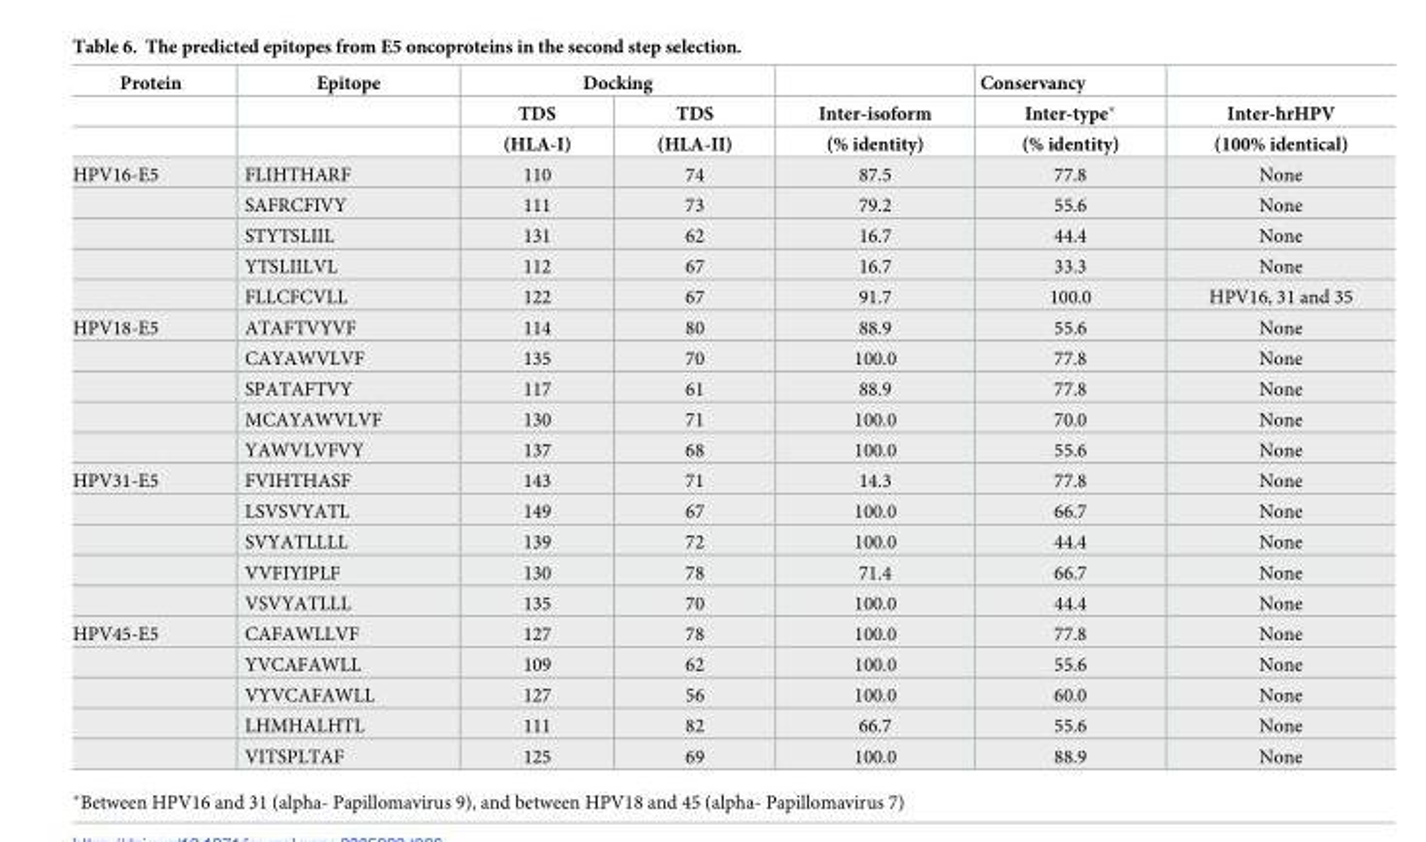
<table><thead><tr><td rowspan="3">Protein</td><td rowspan="3">Epitope</td><td colspan="2">Docking</td><td rowspan="3">Inter-isoform (% identity)</td><td rowspan="3">Conservancy Inter-type* (% identity)</td><td rowspan="3">Inter-hrHPV (100% identical)</td></tr><tr><td rowspan="2">TDS (HLA-I)</td><td rowspan="2">TDS (HLA-II)</td></tr><tr></tr></thead><tbody><tr><td rowspan="5">HPV16-E5</td><td>FLIHTHARF</td><td>110</td><td>74</td><td>87.5</td><td>77.8</td><td>None</td></tr><tr><td>SAFRCFIVY</td><td>111</td><td>73</td><td>79.2</td><td>55.6</td><td>None</td></tr><tr><td>STYTSLIIL</td><td>131</td><td>62</td><td>16.7</td><td>44.4</td><td>None</td></tr><tr><td>YTSLIILVL</td><td>112</td><td>67</td><td>16.7</td><td>33.3</td><td>None</td></tr><tr><td>FLLCFCVLL</td><td>122</td><td>67</td><td>91.7</td><td>100.0</td><td>HPV16, 31 and 35</td></tr><tr><td rowspan="5">HPV18-E5</td><td>ATAFTVYVF</td><td>114</td><td>80</td><td>88.9</td><td>55.6</td><td>None</td></tr><tr><td>CAYAWVLVF</td><td>135</td><td>70</td><td>100.0</td><td>77.8</td><td>None</td></tr><tr><td>SPATAFTVY</td><td>117</td><td>61</td><td>88.9</td><td>77.8</td><td>None</td></tr><tr><td>MCAYAWVLVF</td><td>130</td><td>71</td><td>100.0</td><td>70.0</td><td>None</td></tr><tr><td>YAWVLVFVY</td><td>137</td><td>68</td><td>100.0</td><td>55.6</td><td>None</td></tr><tr><td rowspan="5">HPV31-E5</td><td>FVIHTHASF</td><td>143</td><td>71</td><td>14.3</td><td>77.8</td><td>None</td></tr><tr><td>LSVSVYATL</td><td>149</td><td>67</td><td>100.0</td><td>66.7</td><td>None</td></tr><tr><td>SVYATLLLL</td><td>139</td><td>72</td><td>100.0</td><td>44.4</td><td>None</td></tr><tr><td>VVFIYIPLF</td><td>130</td><td>78</td><td>71.4</td><td>66.7</td><td>None</td></tr><tr><td>VSVYATLLL</td><td>135</td><td>70</td><td>100.0</td><td>44.4</td><td>None</td></tr><tr><td rowspan="5">HPV45-E5</td><td>CAFAWLLVF</td><td>127</td><td>78</td><td>100.0</td><td>77.8</td><td>None</td></tr><tr><td>YVCAFAWLL</td><td>109</td><td>62</td><td>100.0</td><td>55.6</td><td>None</td></tr><tr><td>VYVCAFAWLL</td><td>127</td><td>56</td><td>100.0</td><td>60.0</td><td>None</td></tr><tr><td>LHMHALHTL</td><td>111</td><td>82</td><td>66.7</td><td>55.6</td><td>None</td></tr><tr><td>VITSPLTAF</td><td>125</td><td>69</td><td>100.0</td><td>88.9</td><td>None</td></tr></tbody></table>